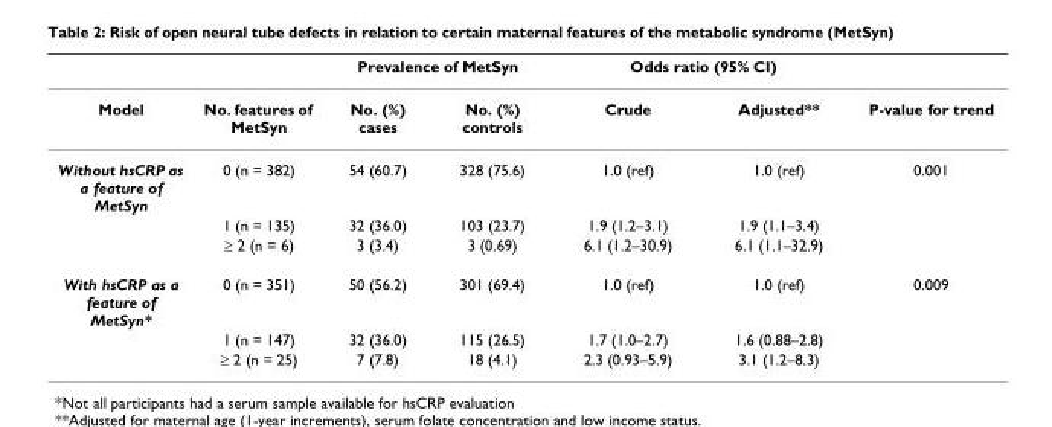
<table><thead><tr><td rowspan="2">Model</td><td rowspan="2">No. features of MetSyn</td><td colspan="2">Prevalence of MetSyn</td><td colspan="2">Odds ratio (95% CI)</td><td rowspan="2">P-value for trend</td></tr><tr><td>No. (%) cases</td><td>No. (%) controls</td><td>Crude</td><td>Adjusted**</td></tr></thead><tbody><tr><td rowspan="3">Without hsCRP as a feature of MetSyn</td><td>0 (n = 382)</td><td>54 (60.7)</td><td>328 (75.6)</td><td>1.0 (ref)</td><td>1.0 (ref)</td><td>0.001</td></tr><tr><td>1 (n = 135)</td><td>32 (36.0)</td><td>103 (23.7)</td><td>1.9 (1.2–3.1)</td><td>1.9 (1.1–3.4)</td><td></td></tr><tr><td>≥ 2 (n = 6)</td><td>3 (3.4)</td><td>3 (0.69)</td><td>6.1 (1.2–30.9)</td><td>6.1 (1.1–32.9)</td><td></td></tr><tr><td rowspan="3">With hsCRP as a feature of MetSyn*</td><td>0 (n = 351)</td><td>50 (56.2)</td><td>301 (69.4)</td><td>1.0 (ref)</td><td>1.0 (ref)</td><td>0.009</td></tr><tr><td>1 (n = 147)</td><td>32 (36.0)</td><td>115 (26.5)</td><td>1.7 (1.0–2.7)</td><td>1.6 (0.88–2.8)</td><td></td></tr><tr><td>≥ 2 (n = 25)</td><td>7 (7.8)</td><td>18 (4.1)</td><td>2.3 (0.93–5.9)</td><td>3.1 (1.2–8.3)</td><td></td></tr></tbody></table>